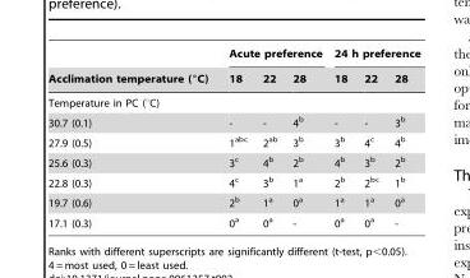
<table><thead><tr><td rowspan="2">Acclimation temperature (°C)</td><td colspan="3">Acute preference</td><td colspan="3">24 h preference</td></tr><tr><td>18</td><td>22</td><td>28</td><td>18</td><td>22</td><td>28</td></tr></thead><tbody><tr><td colspan="7">Temperature in PC (°C)</td></tr><tr><td>30.7 (0.1)</td><td>-</td><td>-</td><td>4<sup>b</sup></td><td>-</td><td>-</td><td>3<sup>b</sup></td></tr><tr><td>27.9 (0.5)</td><td>1<sup>abc</sup></td><td>2<sup>ab</sup></td><td>3<sup>b</sup></td><td>3<sup>b</sup></td><td>4<sup>c</sup></td><td>4<sup>b</sup></td></tr><tr><td>25.6 (0.3)</td><td>3<sup>c</sup></td><td>4<sup>b</sup></td><td>2<sup>b</sup></td><td>4<sup>b</sup></td><td>3<sup>b</sup></td><td>2<sup>b</sup></td></tr><tr><td>22.8 (0.3)</td><td>4<sup>c</sup></td><td>3<sup>b</sup></td><td>1<sup>a</sup></td><td>2<sup>b</sup></td><td>2<sup>bc</sup></td><td>1<sup>b</sup></td></tr><tr><td>19.7 (0.6)</td><td>2<sup>b</sup></td><td>1<sup>a</sup></td><td>0<sup>a</sup></td><td>1<sup>a</sup></td><td>1<sup>a</sup></td><td>0<sup>a</sup></td></tr><tr><td>17.1 (0.3)</td><td>0<sup>a</sup></td><td>0<sup>a</sup></td><td>-</td><td>0<sup>a</sup></td><td>0<sup>a</sup></td><td>-</td></tr></tbody></table>